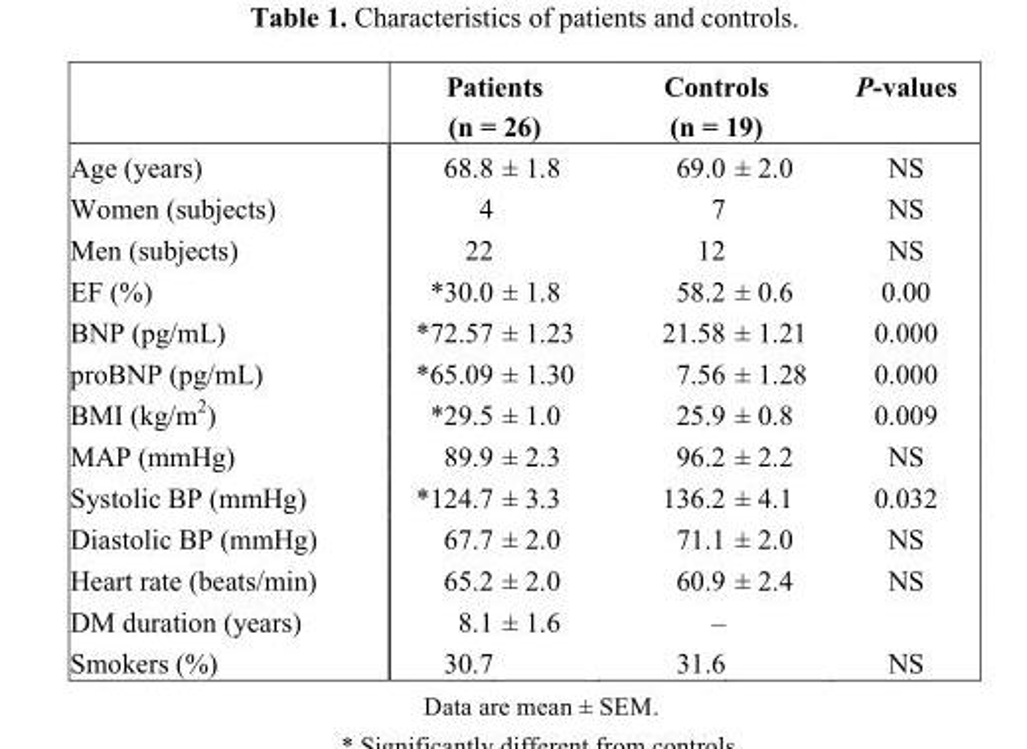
<table><thead><tr><td></td><td>Patients (n = 26)</td><td>Controls (n = 19)</td><td>P-values</td></tr></thead><tbody><tr><td>Age (years)</td><td>68.8 ± 1.8</td><td>69.0 ± 2.0</td><td>NS</td></tr><tr><td>Women (subjects)</td><td>4</td><td>7</td><td>NS</td></tr><tr><td>Men (subjects)</td><td>22</td><td>12</td><td>NS</td></tr><tr><td>EF (%)</td><td>*30.0 ± 1.8</td><td>58.2 ± 0.6</td><td>0.00</td></tr><tr><td>BNP (pg/mL)</td><td>*72.57 ± 1.23</td><td>21.58 ± 1.21</td><td>0.000</td></tr><tr><td>proBNP (pg/mL)</td><td>*65.09 ± 1.30</td><td>7.56 ± 1.28</td><td>0.000</td></tr><tr><td>BMI (kg/m<sup>2</sup>)</td><td>*29.5 ± 1.0</td><td>25.9 ± 0.8</td><td>0.009</td></tr><tr><td>MAP (mmHg)</td><td>89.9 ± 2.3</td><td>96.2 ± 2.2</td><td>NS</td></tr><tr><td>Systolic BP (mmHg)</td><td>*124.7 ± 3.3</td><td>136.2 ± 4.1</td><td>0.032</td></tr><tr><td>Diastolic BP (mmHg)</td><td>67.7 ± 2.0</td><td>71.1 ± 2.0</td><td>NS</td></tr><tr><td>Heart rate (beats/min)</td><td>65.2 ± 2.0</td><td>60.9 ± 2.4</td><td>NS</td></tr><tr><td>DM duration (years)</td><td>8.1 ± 1.6</td><td>–</td><td></td></tr><tr><td>Smokers (%)</td><td>30.7</td><td>31.6</td><td>NS</td></tr></tbody></table>